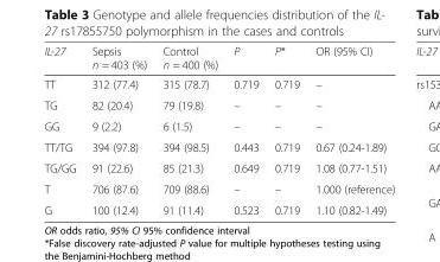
<table><thead><tr><td>IL-27</td><td>Sepsis n = 403 (%)</td><td>Control n = 400 (%)</td><td>P</td><td>P*</td><td>OR (95% CI)</td></tr></thead><tbody><tr><td>TT</td><td>312 (77.4)</td><td>315 (78.7)</td><td>0.719</td><td>0.719</td><td>–</td></tr><tr><td>TG</td><td>82 (20.4)</td><td>79 (19.8)</td><td>–</td><td>–</td><td>–</td></tr><tr><td>GG</td><td>9 (2.2)</td><td>6 (1.5)</td><td>–</td><td>–</td><td>–</td></tr><tr><td>TT/TG</td><td>394 (97.8)</td><td>394 (98.5)</td><td>0.443</td><td>0.719</td><td>0.67 (0.24-1.89)</td></tr><tr><td>TG/GG</td><td>91 (22.6)</td><td>85 (21.3)</td><td>0.649</td><td>0.719</td><td>1.08 (0.77-1.51)</td></tr><tr><td>T</td><td>706 (87.6)</td><td>709 (88.6)</td><td>–</td><td>–</td><td>1.000 (reference)</td></tr><tr><td>G</td><td>100 (12.4)</td><td>91 (11.4)</td><td>0.523</td><td>0.719</td><td>1.10 (0.82-1.49)</td></tr></tbody></table>